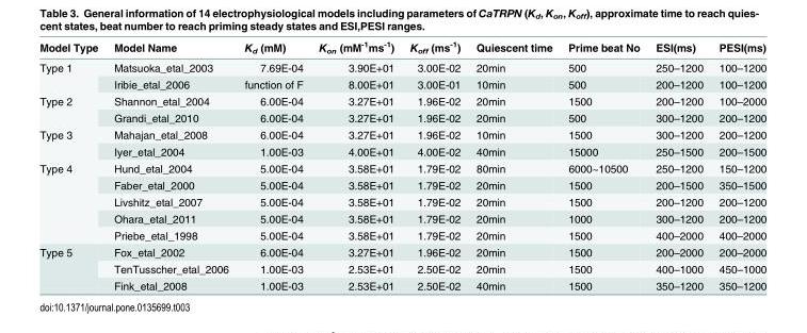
<table><thead><tr><td>Model Type</td><td>Model Name</td><td>K<sub>d</sub> (mM)</td><td>K<sub>on</sub> (mM<sup>-1</sup>ms<sup>-1</sup>)</td><td>K<sub>off</sub> (ms<sup>-1</sup>)</td><td>Quiescent time</td><td>Prime beat No</td><td>ESI(ms)</td><td>PESI(ms)</td></tr></thead><tbody><tr><td rowspan="2">Type 1</td><td>Matsuoka_etal_2003</td><td>7.69E-04</td><td>3.90E+01</td><td>3.00E-02</td><td>20min</td><td>500</td><td>250–1200</td><td>100–1200</td></tr><tr><td>Iribie_etal_2006</td><td>function of F</td><td>8.00E+01</td><td>3.00E-01</td><td>10min</td><td>500</td><td>200–1200</td><td>100–1200</td></tr><tr><td rowspan="2">Type 2</td><td>Shannon_etal_2004</td><td>6.00E-04</td><td>3.27E+01</td><td>1.96E-02</td><td>20min</td><td>1500</td><td>200–1200</td><td>100–2000</td></tr><tr><td>Grandi_etal_2010</td><td>6.00E-04</td><td>3.27E+01</td><td>1.96E-02</td><td>20min</td><td>500</td><td>300–1200</td><td>200–1200</td></tr><tr><td rowspan="2">Type 3</td><td>Mahajan_etal_2008</td><td>6.00E-04</td><td>3.27E+01</td><td>1.96E-02</td><td>10min</td><td>1500</td><td>300–1200</td><td>200–1200</td></tr><tr><td>Iyer_etal_2004</td><td>1.00E-03</td><td>4.00E+01</td><td>4.00E-02</td><td>40min</td><td>15000</td><td>250–1500</td><td>200–1500</td></tr><tr><td rowspan="5">Type 4</td><td>Hund_etal_2004</td><td>5.00E-04</td><td>3.58E+01</td><td>1.79E-02</td><td>80min</td><td>6000~10500</td><td>250–1200</td><td>150–1200</td></tr><tr><td>Faber_etal_2000</td><td>5.00E-04</td><td>3.58E+01</td><td>1.79E-02</td><td>20min</td><td>1500</td><td>200–1500</td><td>350–1500</td></tr><tr><td>Livshitz_etal_2007</td><td>5.00E-04</td><td>3.58E+01</td><td>1.79E-02</td><td>20min</td><td>1500</td><td>200–1200</td><td>200–1200</td></tr><tr><td>Ohara_etal_2011</td><td>5.00E-04</td><td>3.58E+01</td><td>1.79E-02</td><td>20min</td><td>1000</td><td>300–1200</td><td>200–1200</td></tr><tr><td>Priebe_etal_1998</td><td>5.00E-04</td><td>3.58E+01</td><td>1.79E-02</td><td>20min</td><td>1500</td><td>400–2000</td><td>400–2000</td></tr><tr><td rowspan="3">Type 5</td><td>Fox_etal_2002</td><td>6.00E-04</td><td>3.27E+01</td><td>1.96E-02</td><td>20min</td><td>1500</td><td>200–2000</td><td>200–2000</td></tr><tr><td>TenTusscher_etal_2006</td><td>1.00E-03</td><td>2.53E+01</td><td>2.50E-02</td><td>20min</td><td>1500</td><td>400–1000</td><td>450–1000</td></tr><tr><td>Fink_etal_2008</td><td>1.00E-03</td><td>2.53E+01</td><td>2.50E-02</td><td>40min</td><td>1500</td><td>350–1200</td><td>350–1200</td></tr></tbody></table>